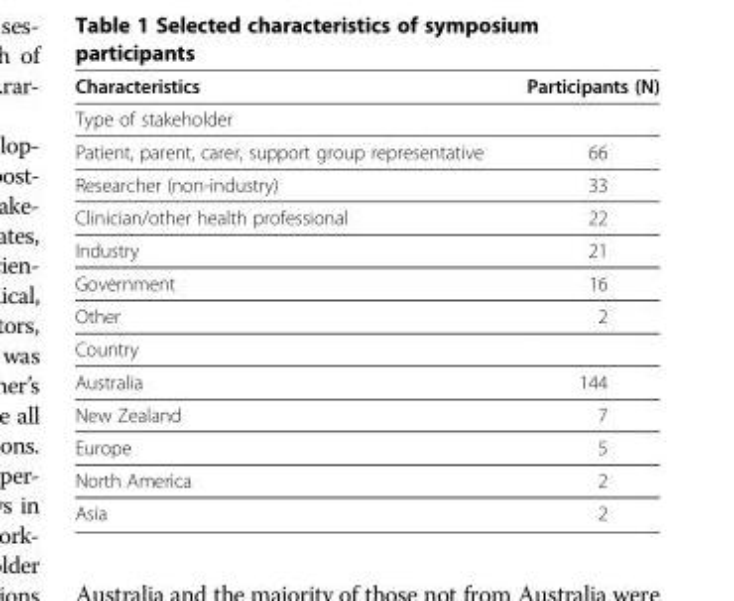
<table><thead><tr><td>Characteristics</td><td>Participants (N)</td></tr></thead><tbody><tr><td colspan="2">Type of stakeholder</td></tr><tr><td>Patient, parent, carer, support group representative</td><td>66</td></tr><tr><td>Researcher (non-industry)</td><td>33</td></tr><tr><td>Clinician/other health professional</td><td>22</td></tr><tr><td>Industry</td><td>21</td></tr><tr><td>Government</td><td>16</td></tr><tr><td>Other</td><td>2</td></tr><tr><td colspan="2">Country</td></tr><tr><td>Australia</td><td>144</td></tr><tr><td>New Zealand</td><td>7</td></tr><tr><td>Europe</td><td>5</td></tr><tr><td>North America</td><td>2</td></tr><tr><td>Asia</td><td>2</td></tr></tbody></table>